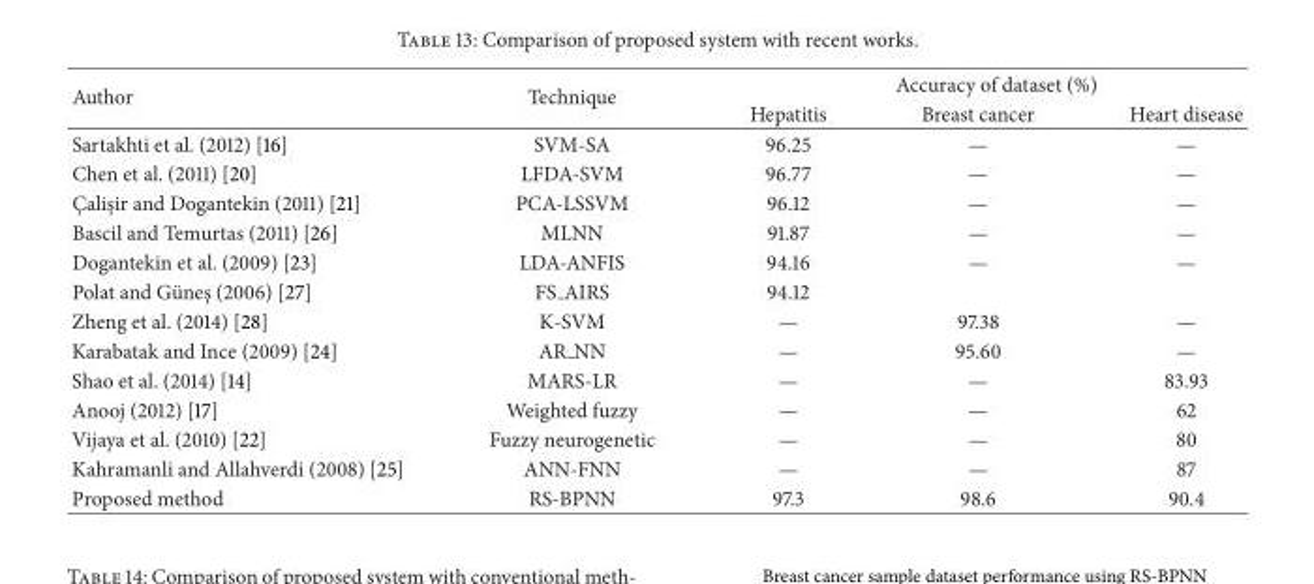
<table><thead><tr><td rowspan="2">Author</td><td rowspan="2">Technique</td><td colspan="3">Accuracy of dataset (%)</td></tr><tr><td>Hepatitis</td><td>Breast cancer</td><td>Heart disease</td></tr></thead><tbody><tr><td>Sartakhti et al. (2012) [16]</td><td>SVM-SA</td><td>96.25</td><td>—</td><td>—</td></tr><tr><td>Chen et al. (2011) [20]</td><td>LFDA-SVM</td><td>96.77</td><td>—</td><td>—</td></tr><tr><td>C¸alis¸ir and Dogantekin (2011) [21]</td><td>PCA-LSSVM</td><td>96.12</td><td>—</td><td>—</td></tr><tr><td>Bascil and Temurtas (2011) [26]</td><td>MLNN</td><td>91.87</td><td>—</td><td>—</td></tr><tr><td>Dogantekin et al. (2009) [23]</td><td>LDA-ANFIS</td><td>94.16</td><td>—</td><td>—</td></tr><tr><td>Polat and G¨unes¸ (2006) [27]</td><td>FS AIRS</td><td>94.12</td><td></td><td></td></tr><tr><td>Zheng et al. (2014) [28]</td><td>K-SVM</td><td>—</td><td>97.38</td><td>—</td></tr><tr><td>Karabatak and Ince (2009) [24]</td><td>AR NN</td><td>—</td><td>95.60</td><td>—</td></tr><tr><td>Shao et al. (2014) [14]</td><td>MARS-LR</td><td>—</td><td>—</td><td>83.93</td></tr><tr><td>Anooj (2012) [17]</td><td>Weighted fuzzy</td><td>—</td><td>—</td><td>62</td></tr><tr><td>Vijaya et al. (2010) [22]</td><td>Fuzzy neurogenetic</td><td>—</td><td>—</td><td>80</td></tr><tr><td>Kahramanli and Allahverdi (2008) [25]</td><td>ANN-FNN</td><td>—</td><td>—</td><td>87</td></tr><tr><td>Proposed method</td><td>RS-BPNN</td><td>97.3</td><td>98.6</td><td>90.4</td></tr></tbody></table>